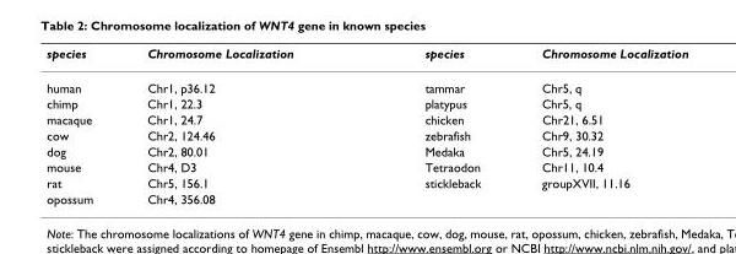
<table><thead><tr><td>species</td><td>Chromosome Localization</td><td>species</td><td>Chromosome Localization</td></tr></thead><tbody><tr><td>human</td><td>Chr1, p36.12</td><td>tammar</td><td>Chr5, q</td></tr><tr><td>chimp</td><td>Chr1, 22.3</td><td>platypus</td><td>Chr5, q</td></tr><tr><td>macaque</td><td>Chr1, 24.7</td><td>chicken</td><td>Chr21, 6.51</td></tr><tr><td>cow</td><td>Chr2, 124.46</td><td>zebrafish</td><td>Chr9, 30.32</td></tr><tr><td>dog</td><td>Chr2, 80.01</td><td>Medaka</td><td>Chr5, 24.19</td></tr><tr><td>mouse</td><td>Chr4, D3</td><td>Tetraodon</td><td>Chr11, 10.4</td></tr><tr><td>rat</td><td>Chr5, 156.1</td><td>stickleback</td><td>groupXVII, 11.16</td></tr><tr><td>opossum</td><td>Chr4, 356.08</td><td></td><td></td></tr></tbody></table>